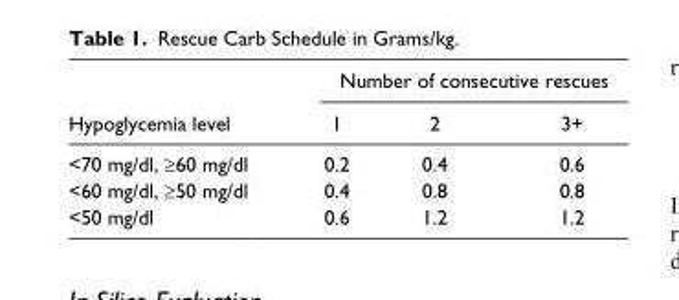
<table><thead><tr><td rowspan="2">Hypoglycemia level</td><td colspan="3">Number of consecutive rescues</td></tr><tr><td>1</td><td>2</td><td>3+</td></tr></thead><tbody><tr><td>&lt;70 mg/dl, ≥60 mg/dl</td><td>0.2</td><td>0.4</td><td>0.6</td></tr><tr><td>&lt;60 mg/dl, ≥50 mg/dl</td><td>0.4</td><td>0.8</td><td>0.8</td></tr><tr><td>&lt;50 mg/dl</td><td>0.6</td><td>1.2</td><td>1.2</td></tr></tbody></table>